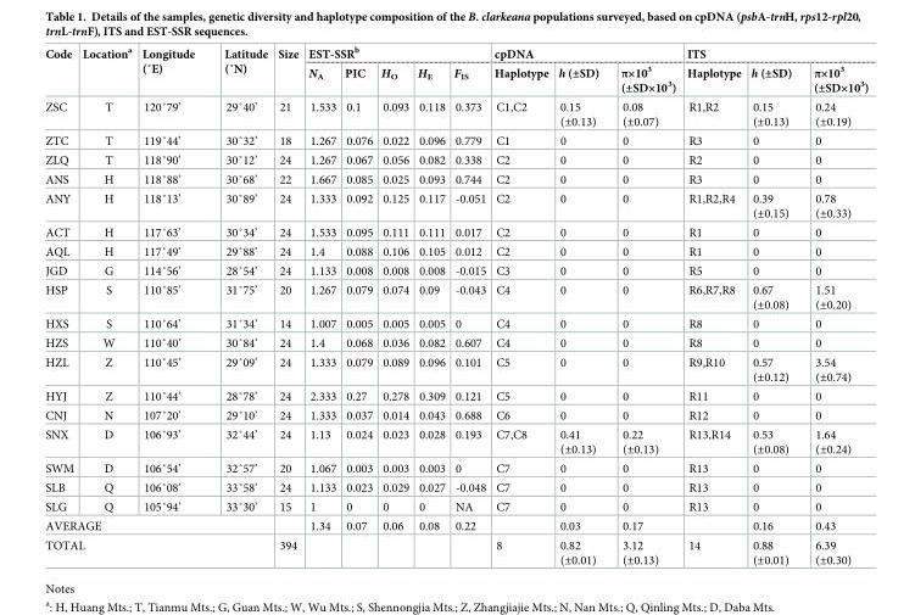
<table><thead><tr><td rowspan="2">Code</td><td rowspan="2">Location<sup>a</sup></td><td rowspan="2">Longitude (˚E)</td><td rowspan="2">Latitude (˚N)</td><td rowspan="2">Size</td><td colspan="5">EST-SSR<sup>b</sup></td><td colspan="3">cpDNA</td><td colspan="3">ITS</td></tr><tr><td>N<sub>A</sub></td><td>PIC</td><td>H<sub>O</sub></td><td>H<sub>E</sub></td><td>F<sub>IS</sub></td><td>Haplotype</td><td>h (±SD)</td><td>π×10<sup>3</sup> (±SD×10<sup>3</sup>)</td><td>Haplotype</td><td>h (±SD)</td><td>π×10<sup>3</sup> (±SD×10<sup>3</sup>)</td></tr></thead><tbody><tr><td>ZSC</td><td>T</td><td>120˚79’</td><td>29˚40’</td><td>21</td><td>1.533</td><td>0.1</td><td>0.093</td><td>0.118</td><td>0.373</td><td>C1,C2</td><td>0.15 (±0.13)</td><td>0.08 (±0.07)</td><td>R1,R2</td><td>0.15 (±0.13)</td><td>0.24 (±0.19)</td></tr><tr><td>ZTC</td><td>T</td><td>119˚44’</td><td>30˚32’</td><td>18</td><td>1.267</td><td>0.076</td><td>0.022</td><td>0.096</td><td>0.779</td><td>C1</td><td>0</td><td>0</td><td>R3</td><td>0</td><td>0</td></tr><tr><td>ZLQ</td><td>T</td><td>118˚90’</td><td>30˚12’</td><td>24</td><td>1.267</td><td>0.067</td><td>0.056</td><td>0.082</td><td>0.338</td><td>C2</td><td>0</td><td>0</td><td>R2</td><td>0</td><td>0</td></tr><tr><td>ANS</td><td>H</td><td>118˚88’</td><td>30˚68’</td><td>22</td><td>1.667</td><td>0.085</td><td>0.025</td><td>0.093</td><td>0.744</td><td>C2</td><td>0</td><td>0</td><td>R3</td><td>0</td><td>0</td></tr><tr><td>ANY</td><td>H</td><td>118˚13’</td><td>30˚89’</td><td>24</td><td>1.333</td><td>0.092</td><td>0.125</td><td>0.117</td><td>-0.051</td><td>C2</td><td>0</td><td>0</td><td>R1,R2,R4</td><td>0.39 (±0.15)</td><td>0.78 (±0.33)</td></tr><tr><td>ACT</td><td>H</td><td>117˚63’</td><td>30˚34’</td><td>24</td><td>1.533</td><td>0.095</td><td>0.111</td><td>0.111</td><td>0.017</td><td>C2</td><td>0</td><td>0</td><td>R1</td><td>0</td><td>0</td></tr><tr><td>AQL</td><td>H</td><td>117˚49’</td><td>29˚88’</td><td>24</td><td>1.4</td><td>0.088</td><td>0.106</td><td>0.105</td><td>0.012</td><td>C2</td><td>0</td><td>0</td><td>R1</td><td>0</td><td>0</td></tr><tr><td>JGD</td><td>G</td><td>114˚56’</td><td>28˚54’</td><td>24</td><td>1.133</td><td>0.008</td><td>0.008</td><td>0.008</td><td>-0.015</td><td>C3</td><td>0</td><td>0</td><td>R5</td><td>0</td><td>0</td></tr><tr><td>HSP</td><td>S</td><td>110˚85’</td><td>31˚75’</td><td>20</td><td>1.267</td><td>0.079</td><td>0.074</td><td>0.09</td><td>-0.043</td><td>C4</td><td>0</td><td>0</td><td>R6,R7,R8</td><td>0.67 (±0.08)</td><td>1.51 (±0.20)</td></tr><tr><td>HXS</td><td>S</td><td>110˚64’</td><td>31˚34’</td><td>14</td><td>1.007</td><td>0.005</td><td>0.005</td><td>0.005</td><td>0</td><td>C4</td><td>0</td><td>0</td><td>R8</td><td>0</td><td>0</td></tr><tr><td>HZS</td><td>W</td><td>110˚40’</td><td>30˚84’</td><td>24</td><td>1.4</td><td>0.068</td><td>0.036</td><td>0.082</td><td>0.607</td><td>C4</td><td>0</td><td>0</td><td>R8</td><td>0</td><td>0</td></tr><tr><td>HZL</td><td>Z</td><td>110˚45’</td><td>29˚09’</td><td>24</td><td>1.333</td><td>0.079</td><td>0.089</td><td>0.096</td><td>0.101</td><td>C5</td><td>0</td><td>0</td><td>R9,R10</td><td>0.57 (±0.12)</td><td>3.54 (±0.74)</td></tr><tr><td>HYJ</td><td>Z</td><td>110˚44’</td><td>28˚78’</td><td>24</td><td>2.333</td><td>0.27</td><td>0.278</td><td>0.309</td><td>0.121</td><td>C5</td><td>0</td><td>0</td><td>R11</td><td>0</td><td>0</td></tr><tr><td>CNJ</td><td>N</td><td>107˚20’</td><td>29˚10’</td><td>24</td><td>1.333</td><td>0.037</td><td>0.014</td><td>0.043</td><td>0.688</td><td>C6</td><td>0</td><td>0</td><td>R12</td><td>0</td><td>0</td></tr><tr><td>SNX</td><td>D</td><td>106˚93’</td><td>32˚44’</td><td>24</td><td>1.13</td><td>0.024</td><td>0.023</td><td>0.028</td><td>0.193</td><td>C7,C8</td><td>0.41 (±0.13)</td><td>0.22 (±0.13)</td><td>R13,R14</td><td>0.53 (±0.08)</td><td>1.64 (±0.24)</td></tr><tr><td>SWM</td><td>D</td><td>106˚54’</td><td>32˚57’</td><td>20</td><td>1.067</td><td>0.003</td><td>0.003</td><td>0.003</td><td>0</td><td>C7</td><td>0</td><td>0</td><td>R13</td><td>0</td><td>0</td></tr><tr><td>SLB</td><td>Q</td><td>106˚08’</td><td>33˚58’</td><td>24</td><td>1.133</td><td>0.023</td><td>0.029</td><td>0.027</td><td>-0.048</td><td>C7</td><td>0</td><td>0</td><td>R13</td><td>0</td><td>0</td></tr><tr><td>SLG</td><td>Q</td><td>105˚94’</td><td>33˚30’</td><td>15</td><td>1</td><td>0</td><td>0</td><td>0</td><td>NA</td><td>C7</td><td>0</td><td>0</td><td>R13</td><td>0</td><td>0</td></tr><tr><td colspan="4">AVERAGE</td><td></td><td>1.34</td><td>0.07</td><td>0.06</td><td>0.08</td><td>0.22</td><td></td><td>0.03</td><td>0.17</td><td></td><td>0.16</td><td>0.43</td></tr><tr><td colspan="4">TOTAL</td><td>394</td><td></td><td></td><td></td><td></td><td></td><td>8</td><td>0.82 (±0.01)</td><td>3.12 (±0.13)</td><td>14</td><td>0.88 (±0.01)</td><td>6.39 (±0.30)</td></tr></tbody></table>